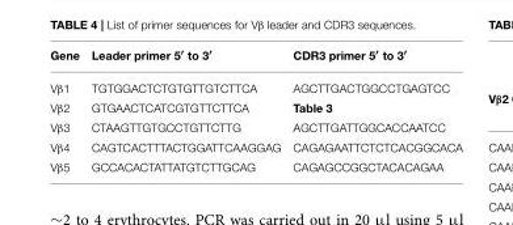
<table><thead><tr><td>Gene</td><td>Leader primer 5′ to 3′</td><td>CDR3 primer 5′ to 3′</td></tr></thead><tbody><tr><td>Vβ1</td><td>TGTGGACTCTGTGTTGTCTTCA</td><td>AGCTTGACTGGCCTGAGTCC</td></tr><tr><td>Vβ2</td><td>GTGAACTCATCGTGTTCTTCA</td><td>Table 3</td></tr><tr><td>Vβ3</td><td>CTAAGTTGTGCCTGTTCTTG</td><td>AGCTTGATTGGCACCAATCC</td></tr><tr><td>Vβ4</td><td>CAGTCACTTTACTGGATTCAAGGAG</td><td>CAGAGAATTCTCTCACGGCACA</td></tr><tr><td>Vβ5</td><td>GCCACACTATTATGTCTTGCAG</td><td>CAGAGCCGGCTACACAGAA</td></tr></tbody></table>